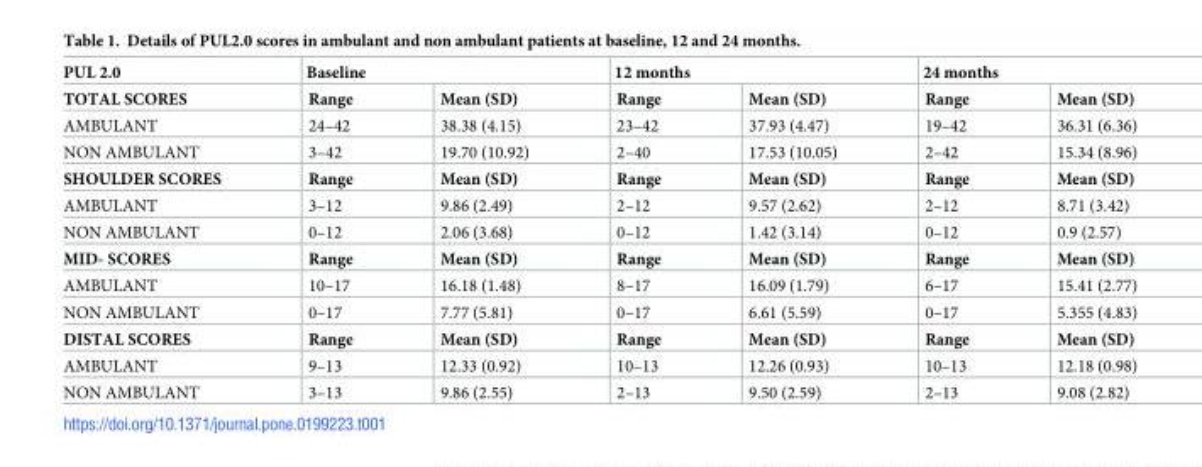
<table><thead><tr><td rowspan="2">PUL 2.0 TOTAL SCORES</td><td colspan="2">Baseline</td><td colspan="2">12 months</td><td colspan="2">24 months</td></tr><tr><td>Range</td><td>Mean (SD)</td><td>Range</td><td>Mean (SD)</td><td>Range</td><td>Mean (SD)</td></tr></thead><tbody><tr><td>AMBULANT</td><td>24–42</td><td>38.38 (4.15)</td><td>23–42</td><td>37.93 (4.47)</td><td>19–42</td><td>36.31 (6.36)</td></tr><tr><td>NON AMBULANT</td><td>3–42</td><td>19.70 (10.92)</td><td>2–40</td><td>17.53 (10.05)</td><td>2–42</td><td>15.34 (8.96)</td></tr><tr><td>SHOULDER SCORES</td><td>Range</td><td>Mean (SD)</td><td>Range</td><td>Mean (SD)</td><td>Range</td><td>Mean (SD)</td></tr><tr><td>AMBULANT</td><td>3–12</td><td>9.86 (2.49)</td><td>2–12</td><td>9.57 (2.62)</td><td>2–12</td><td>8.71 (3.42)</td></tr><tr><td>NON AMBULANT</td><td>0–12</td><td>2.06 (3.68)</td><td>0–12</td><td>1.42 (3.14)</td><td>0–12</td><td>0.9 (2.57)</td></tr><tr><td>MID- SCORES</td><td>Range</td><td>Mean (SD)</td><td>Range</td><td>Mean (SD)</td><td>Range</td><td>Mean (SD)</td></tr><tr><td>AMBULANT</td><td>10–17</td><td>16.18 (1.48)</td><td>8–17</td><td>16.09 (1.79)</td><td>6–17</td><td>15.41 (2.77)</td></tr><tr><td>NON AMBULANT</td><td>0–17</td><td>7.77 (5.81)</td><td>0–17</td><td>6.61 (5.59)</td><td>0–17</td><td>5.355 (4.83)</td></tr><tr><td>DISTAL SCORES</td><td>Range</td><td>Mean (SD)</td><td>Range</td><td>Mean (SD)</td><td>Range</td><td>Mean (SD)</td></tr><tr><td>AMBULANT</td><td>9–13</td><td>12.33 (0.92)</td><td>10–13</td><td>12.26 (0.93)</td><td>10–13</td><td>12.18 (0.98)</td></tr><tr><td>NON AMBULANT</td><td>3–13</td><td>9.86 (2.55)</td><td>2–13</td><td>9.50 (2.59)</td><td>2–13</td><td>9.08 (2.82)</td></tr></tbody></table>